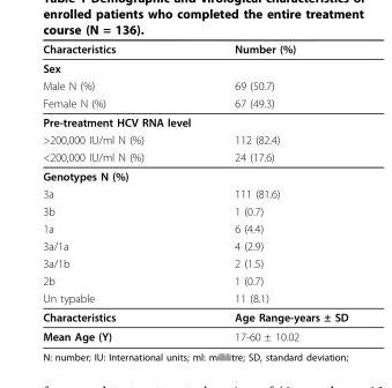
<table><thead><tr><td>Characteristics</td><td>Number (%)</td></tr></thead><tbody><tr><td colspan="2">Sex</td></tr><tr><td>Male N (%)</td><td>69 (50.7)</td></tr><tr><td>Female N (%)</td><td>67 (49.3)</td></tr><tr><td colspan="2">Pre-treatment HCV RNA level</td></tr><tr><td>&gt;200,000 IU/ml N (%)</td><td>112 (82.4)</td></tr><tr><td>&lt;200,000 IU/ml N (%)</td><td>24 (17.6)</td></tr><tr><td colspan="2">Genotypes N (%)</td></tr><tr><td>3a</td><td>111 (81.6)</td></tr><tr><td>3b</td><td>1 (0.7)</td></tr><tr><td>1a</td><td>6 (4.4)</td></tr><tr><td>3a/1a</td><td>4 (2.9)</td></tr><tr><td>3a/1b</td><td>2 (1.5)</td></tr><tr><td>2b</td><td>1 (0.7)</td></tr><tr><td>Un typable</td><td>11 (8.1)</td></tr><tr><td>Characteristics</td><td>Age Range-years ± SD</td></tr><tr><td>Mean Age (Y)</td><td>17-60 ± 10.02</td></tr></tbody></table>